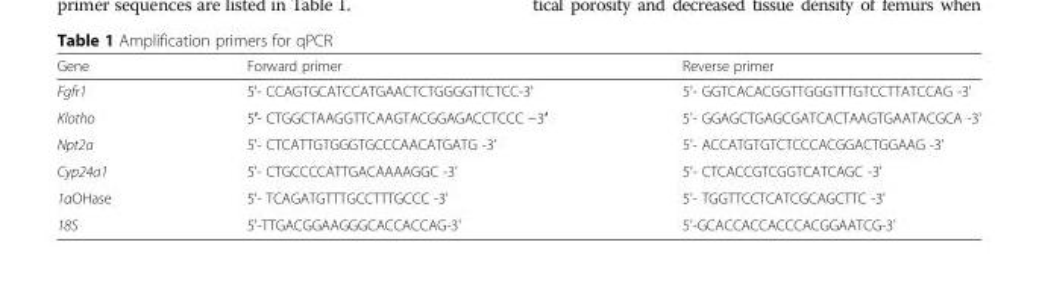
<table><thead><tr><td>Gene</td><td>Forward primer</td><td>Reverse primer</td></tr></thead><tbody><tr><td>Fgfr1</td><td>5&#x27;- CCAGTGCATCCATGAACTCTGGGGTTCTCC-3&#x27;</td><td>5&#x27;- GGTCACACGGTTGGGTTTGTCCTTATCCAG -3&#x27;</td></tr><tr><td>Klotho</td><td>5′- CTGGCTAAGGTTCAAGTACGGAGACCTCCC −3′</td><td>5&#x27;- GGAGCTGAGCGATCACTAAGTGAATACGCA -3&#x27;</td></tr><tr><td>Npt2a</td><td>5&#x27;- CTCATTGTGGGTGCCCAACATGATG -3&#x27;</td><td>5&#x27;- ACCATGTGTCTCCCACGGACTGGAAG -3&#x27;</td></tr><tr><td>Cyp24a1</td><td>5&#x27;- CTGCCCCATTGACAAAAGGC -3&#x27;</td><td>5&#x27;- CTCACCGTCGGTCATCAGC -3&#x27;</td></tr><tr><td>1αOHase</td><td>5&#x27;- TCAGATGTTTGCCTTTGCCC -3&#x27;</td><td>5&#x27;- TGGTTCCTCATCGCAGCTTC -3&#x27;</td></tr><tr><td>18S</td><td>5&#x27;-TTGACGGAAGGGCACCACCAG-3&#x27;</td><td>5&#x27;-GCACCACCACCCACGGAATCG-3&#x27;</td></tr></tbody></table>